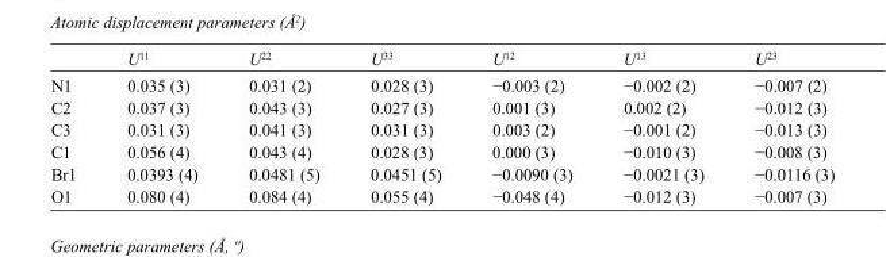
<table><thead><tr><td></td><td>U<sup>11</sup></td><td>U<sup>22</sup></td><td>U<sup>33</sup></td><td>U<sup>12</sup></td><td>U<sup>13</sup></td><td>U<sup>23</sup></td></tr></thead><tbody><tr><td>N1</td><td>0.035 (3)</td><td>0.031 (2)</td><td>0.028 (3)</td><td>−0.003 (2)</td><td>−0.002 (2)</td><td>−0.007 (2)</td></tr><tr><td>C2</td><td>0.037 (3)</td><td>0.043 (3)</td><td>0.027 (3)</td><td>0.001 (3)</td><td>0.002 (2)</td><td>−0.012 (3)</td></tr><tr><td>C3</td><td>0.031 (3)</td><td>0.041 (3)</td><td>0.031 (3)</td><td>0.003 (2)</td><td>−0.001 (2)</td><td>−0.013 (3)</td></tr><tr><td>C1</td><td>0.056 (4)</td><td>0.043 (4)</td><td>0.028 (3)</td><td>0.000 (3)</td><td>−0.010 (3)</td><td>−0.008 (3)</td></tr><tr><td>Br1</td><td>0.0393 (4)</td><td>0.0481 (5)</td><td>0.0451 (5)</td><td>−0.0090 (3)</td><td>−0.0021 (3)</td><td>−0.0116 (3)</td></tr><tr><td>O1</td><td>0.080 (4)</td><td>0.084 (4)</td><td>0.055 (4)</td><td>−0.048 (4)</td><td>−0.012 (3)</td><td>−0.007 (3)</td></tr></tbody></table>